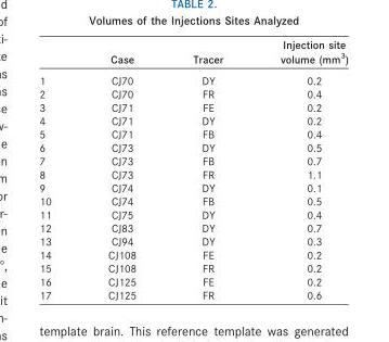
<table><thead><tr><td></td><td>Case</td><td>Tracer</td><td>Injection site volume (mm<sup>3</sup>)</td></tr></thead><tbody><tr><td>1</td><td>CJ70</td><td>DY</td><td>0.2</td></tr><tr><td>2</td><td>CJ70</td><td>FR</td><td>0.4</td></tr><tr><td>3</td><td>CJ71</td><td>FE</td><td>0.2</td></tr><tr><td>4</td><td>CJ71</td><td>DY</td><td>0.2</td></tr><tr><td>5</td><td>CJ71</td><td>FB</td><td>0.4</td></tr><tr><td>6</td><td>CJ73</td><td>DY</td><td>0.5</td></tr><tr><td>7</td><td>CJ73</td><td>FB</td><td>0.7</td></tr><tr><td>8</td><td>CJ73</td><td>FR</td><td>1.1</td></tr><tr><td>9</td><td>CJ74</td><td>DY</td><td>0.1</td></tr><tr><td>10</td><td>CJ74</td><td>FB</td><td>0.5</td></tr><tr><td>11</td><td>CJ75</td><td>DY</td><td>0.4</td></tr><tr><td>12</td><td>CJ83</td><td>DY</td><td>0.7</td></tr><tr><td>13</td><td>CJ94</td><td>DY</td><td>0.3</td></tr><tr><td>14</td><td>CJ108</td><td>FE</td><td>0.2</td></tr><tr><td>15</td><td>CJ108</td><td>FR</td><td>0.2</td></tr><tr><td>16</td><td>CJ125</td><td>FE</td><td>0.2</td></tr><tr><td>17</td><td>CJ125</td><td>FR</td><td>0.6</td></tr></tbody></table>